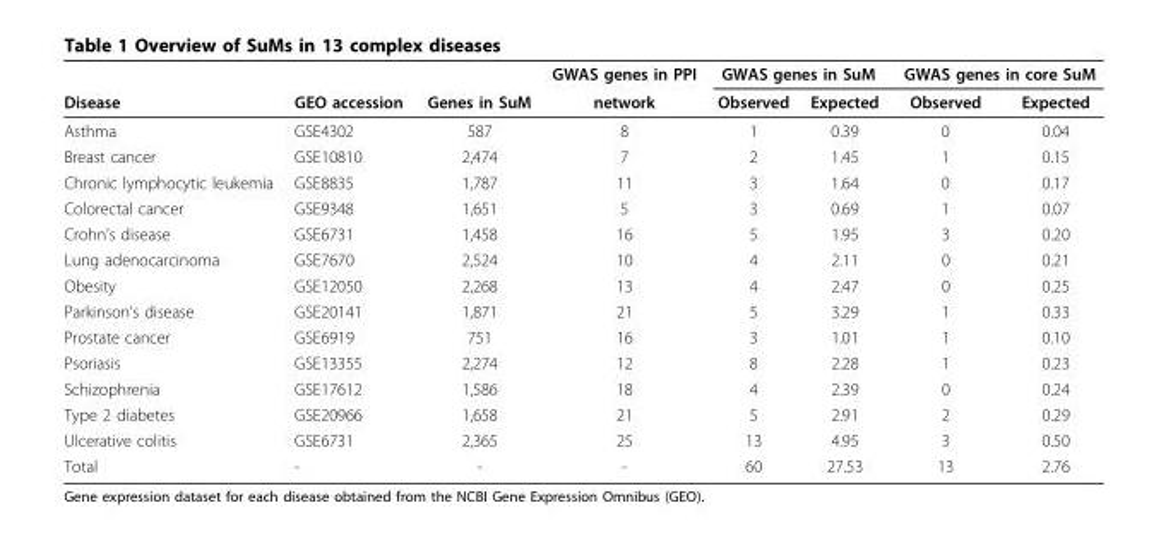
<table><thead><tr><td rowspan="2">Disease</td><td rowspan="2">GEO accession</td><td rowspan="2">Genes in SuM</td><td rowspan="2">GWAS genes in PPI network</td><td colspan="2">GWAS genes in SuM</td><td colspan="2">GWAS genes in core SuM</td></tr><tr><td>Observed</td><td>Expected</td><td>Observed</td><td>Expected</td></tr></thead><tbody><tr><td>Asthma</td><td>GSE4302</td><td>587</td><td>8</td><td>1</td><td>0.39</td><td>0</td><td>0.04</td></tr><tr><td>Breast cancer</td><td>GSE10810</td><td>2,474</td><td>7</td><td>2</td><td>1.45</td><td>1</td><td>0.15</td></tr><tr><td>Chronic lymphocytic leukemia</td><td>GSE8835</td><td>1,787</td><td>11</td><td>3</td><td>1.64</td><td>0</td><td>0.17</td></tr><tr><td>Colorectal cancer</td><td>GSE9348</td><td>1,651</td><td>5</td><td>3</td><td>0.69</td><td>1</td><td>0.07</td></tr><tr><td>Crohn’s disease</td><td>GSE6731</td><td>1,458</td><td>16</td><td>5</td><td>1.95</td><td>3</td><td>0.20</td></tr><tr><td>Lung adenocarcinoma</td><td>GSE7670</td><td>2,524</td><td>10</td><td>4</td><td>2.11</td><td>0</td><td>0.21</td></tr><tr><td>Obesity</td><td>GSE12050</td><td>2,268</td><td>13</td><td>4</td><td>2.47</td><td>0</td><td>0.25</td></tr><tr><td>Parkinson’s disease</td><td>GSE20141</td><td>1,871</td><td>21</td><td>5</td><td>3.29</td><td>1</td><td>0.33</td></tr><tr><td>Prostate cancer</td><td>GSE6919</td><td>751</td><td>16</td><td>3</td><td>1.01</td><td>1</td><td>0.10</td></tr><tr><td>Psoriasis</td><td>GSE13355</td><td>2,274</td><td>12</td><td>8</td><td>2.28</td><td>1</td><td>0.23</td></tr><tr><td>Schizophrenia</td><td>GSE17612</td><td>1,586</td><td>18</td><td>4</td><td>2.39</td><td>0</td><td>0.24</td></tr><tr><td>Type 2 diabetes</td><td>GSE20966</td><td>1,658</td><td>21</td><td>5</td><td>2.91</td><td>2</td><td>0.29</td></tr><tr><td>Ulcerative colitis</td><td>GSE6731</td><td>2,365</td><td>25</td><td>13</td><td>4.95</td><td>3</td><td>0.50</td></tr><tr><td>Total</td><td>-</td><td>-</td><td>-</td><td>60</td><td>27.53</td><td>13</td><td>2.76</td></tr></tbody></table>